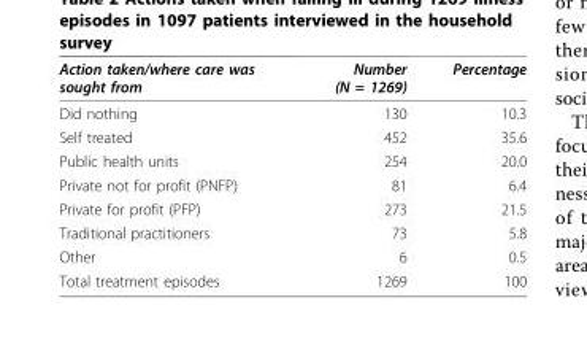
<table><thead><tr><td>Action taken/where care was sought from</td><td>Number (N = 1269)</td><td>Percentage</td></tr></thead><tbody><tr><td>Did nothing</td><td>130</td><td>10.3</td></tr><tr><td>Self treated</td><td>452</td><td>35.6</td></tr><tr><td>Public health units</td><td>254</td><td>20.0</td></tr><tr><td>Private not for profit (PNFP)</td><td>81</td><td>6.4</td></tr><tr><td>Private for profit (PFP)</td><td>273</td><td>21.5</td></tr><tr><td>Traditional practitioners</td><td>73</td><td>5.8</td></tr><tr><td>Other</td><td>6</td><td>0.5</td></tr><tr><td>Total treatment episodes</td><td>1269</td><td>100</td></tr></tbody></table>